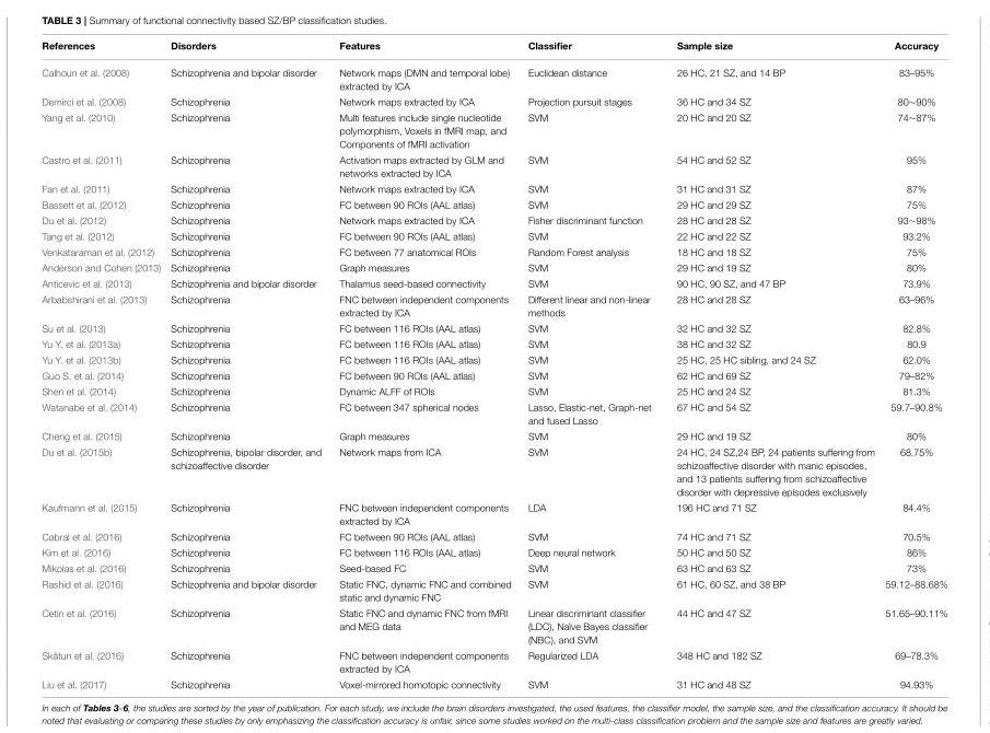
<table><thead><tr><td>References</td><td>Disorders</td><td>Features</td><td>Classifier</td><td>Sample size</td><td>Accuracy</td></tr></thead><tbody><tr><td>Calhoun et al. (2008)</td><td>Schizophrenia and bipolar disorder</td><td>Network maps (DMN and temporal lobe) extracted by ICA</td><td>Euclidean distance</td><td>26 HC, 21 SZ, and 14 BP</td><td>83–95%</td></tr><tr><td>Demirci et al. (2008)</td><td>Schizophrenia</td><td>Network maps extracted by ICA</td><td>Projection pursuit stages</td><td>36 HC and 34 SZ</td><td>80∼90%</td></tr><tr><td>Yang et al. (2010)</td><td>Schizophrenia</td><td>Multi features include single nucleotide polymorphism, Voxels in fMRI map, and Components of fMRI activation</td><td>SVM</td><td>20 HC and 20 SZ</td><td>74∼87%</td></tr><tr><td>Castro et al. (2011)</td><td>Schizophrenia</td><td>Activation maps extracted by GLM and networks extracted by ICA</td><td>SVM</td><td>54 HC and 52 SZ</td><td>95%</td></tr><tr><td>Fan et al. (2011)</td><td>Schizophrenia</td><td>Network maps extracted by ICA</td><td>SVM</td><td>31 HC and 31 SZ</td><td>87%</td></tr><tr><td>Bassett et al. (2012)</td><td>Schizophrenia</td><td>FC between 90 ROIs (AAL atlas)</td><td>SVM</td><td>29 HC and 29 SZ</td><td>75%</td></tr><tr><td>Du et al. (2012)</td><td>Schizophrenia</td><td>Network maps extracted by ICA</td><td>Fisher discriminant function</td><td>28 HC and 28 SZ</td><td>93∼98%</td></tr><tr><td>Tang et al. (2012)</td><td>Schizophrenia</td><td>FC between 90 ROIs (AAL atlas)</td><td>SVM</td><td>22 HC and 22 SZ</td><td>93.2%</td></tr><tr><td>Venkataraman et al. (2012)</td><td>Schizophrenia</td><td>FC between 77 anatomical ROIs</td><td>Random Forest analysis</td><td>18 HC and 18 SZ</td><td>75%</td></tr><tr><td>Anderson and Cohen (2013)</td><td>Schizophrenia</td><td>Graph measures</td><td>SVM</td><td>29 HC and 19 SZ</td><td>80%</td></tr><tr><td>Anticevic et al. (2013)</td><td>Schizophrenia and bipolar disorder</td><td>Thalamus seed-based connectivity</td><td>SVM</td><td>90 HC, 90 SZ, and 47 BP</td><td>73.9%</td></tr><tr><td>Arbabshirani et al. (2013)</td><td>Schizophrenia</td><td>FNC between independent components extracted by ICA</td><td>Different linear and non-linear methods</td><td>28 HC and 28 SZ</td><td>63–96%</td></tr><tr><td>Su et al. (2013)</td><td>Schizophrenia</td><td>FC between 116 ROIs (AAL atlas)</td><td>SVM</td><td>32 HC and 32 SZ</td><td>82.8%</td></tr><tr><td>Yu Y. et al. (2013a)</td><td>Schizophrenia</td><td>FC between 116 ROIs (AAL atlas)</td><td>SVM</td><td>38 HC and 32 SZ</td><td>80.9</td></tr><tr><td>Yu Y. et al. (2013b)</td><td>Schizophrenia</td><td>FC between 116 ROIs (AAL atlas)</td><td>SVM</td><td>25 HC, 25 HC sibling, and 24 SZ</td><td>62.0%</td></tr><tr><td>Guo S. et al. (2014)</td><td>Schizophrenia</td><td>FC between 90 ROIs (AAL atlas)</td><td>SVM</td><td>62 HC and 69 SZ</td><td>79–82%</td></tr><tr><td>Shen et al. (2014)</td><td>Schizophrenia</td><td>Dynamic ALFF of ROIs</td><td>SVM</td><td>25 HC and 24 SZ</td><td>81.3%</td></tr><tr><td>Watanabe et al. (2014)</td><td>Schizophrenia</td><td>FC between 347 spherical nodes</td><td>Lasso, Elastic-net, Graph-net and fused Lasso</td><td>67 HC and 54 SZ</td><td>59.7–90.8%</td></tr><tr><td>Cheng et al. (2015)</td><td>Schizophrenia</td><td>Graph measures</td><td>SVM</td><td>29 HC and 19 SZ</td><td>80%</td></tr><tr><td>Du et al. (2015b)</td><td>Schizophrenia, bipolar disorder, and schizoaffective disorder</td><td>Network maps from ICA</td><td>SVM</td><td>24 HC, 24 SZ,24 BP, 24 patients suffering from schizoaffective disorder with manic episodes, and 13 patients suffering from schizoaffective disorder with depressive episodes exclusively</td><td>68.75%</td></tr><tr><td>Kaufmann et al. (2015)</td><td>Schizophrenia</td><td>FNC between independent components extracted by ICA</td><td>LDA</td><td>196 HC and 71 SZ</td><td>84.4%</td></tr><tr><td>Cabral et al. (2016)</td><td>Schizophrenia</td><td>FC between 90 ROIs (AAL atlas)</td><td>SVM</td><td>74 HC and 71 SZ</td><td>70.5%</td></tr><tr><td>Kim et al. (2016)</td><td>Schizophrenia</td><td>FC between 116 ROIs (AAL atlas)</td><td>Deep neural network</td><td>50 HC and 50 SZ</td><td>86%</td></tr><tr><td>Mikolas et al. (2016)</td><td>Schizophrenia</td><td>Seed-based FC</td><td>SVM</td><td>63 HC and 63 SZ</td><td>73%</td></tr><tr><td>Rashid et al. (2016)</td><td>Schizophrenia and bipolar disorder</td><td>Static FNC, dynamic FNC and combined static and dynamic FNC</td><td>SVM</td><td>61 HC, 60 SZ, and 38 BP</td><td>59.12–88.68%</td></tr><tr><td>Cetin et al. (2016)</td><td>Schizophrenia</td><td>Static FNC and dynamic FNC from fMRI and MEG data</td><td>Linear discriminant classifier (LDC), Naïve Bayes classifier (NBC), and SVM</td><td>44 HC and 47 SZ</td><td>51.65–90.11%</td></tr><tr><td>Skåtun et al. (2016)</td><td>Schizophrenia</td><td>FNC between independent components extracted by ICA</td><td>Regularized LDA</td><td>348 HC and 182 SZ</td><td>69–78.3%</td></tr><tr><td>Liu et al. (2017)</td><td>Schizophrenia</td><td>Voxel-mirrored homotopic connectivity</td><td>SVM</td><td>31 HC and 48 SZ</td><td>94.93%</td></tr></tbody></table>